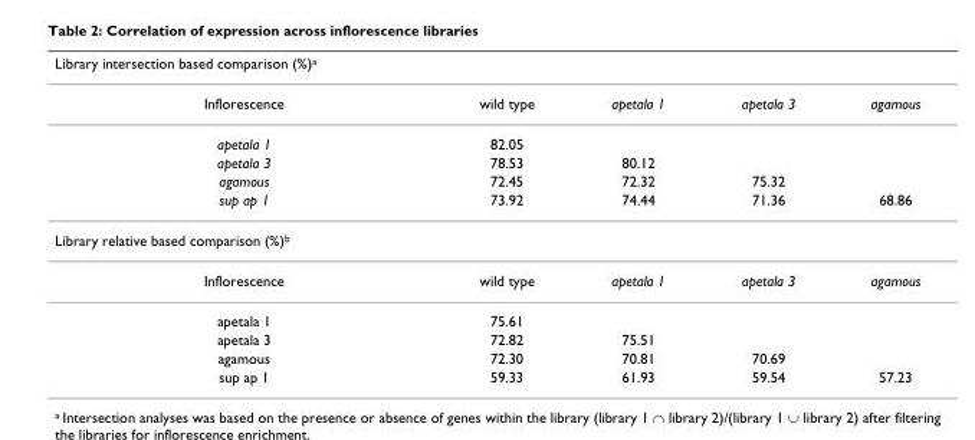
<table><thead><tr><td colspan="5">Library intersection based comparison (%)<sup>a</sup></td></tr><tr><td>Inflorescence</td><td>wild type</td><td>apetala 1</td><td>apetala 3</td><td>agamous</td></tr></thead><tbody><tr><td>apetala 1</td><td>82.05</td><td></td><td></td><td></td></tr><tr><td>apetala 3</td><td>78.53</td><td>80.12</td><td></td><td></td></tr><tr><td>agamous</td><td>72.45</td><td>72.32</td><td>75.32</td><td></td></tr><tr><td>sup ap 1</td><td>73.92</td><td>74.44</td><td>71.36</td><td>68.86</td></tr><tr><td colspan="5">Library relative based comparison (%)<sup>b</sup></td></tr><tr><td>Inflorescence</td><td>wild type</td><td>apetala 1</td><td>apetala 3</td><td>agamous</td></tr><tr><td>apetala 1</td><td>75.61</td><td></td><td></td><td></td></tr><tr><td>apetala 3</td><td>72.82</td><td>75.51</td><td></td><td></td></tr><tr><td>agamous</td><td>72.30</td><td>70.81</td><td>70.69</td><td></td></tr><tr><td>sup ap 1</td><td>59.33</td><td>61.93</td><td>59.54</td><td>57.23</td></tr></tbody></table>